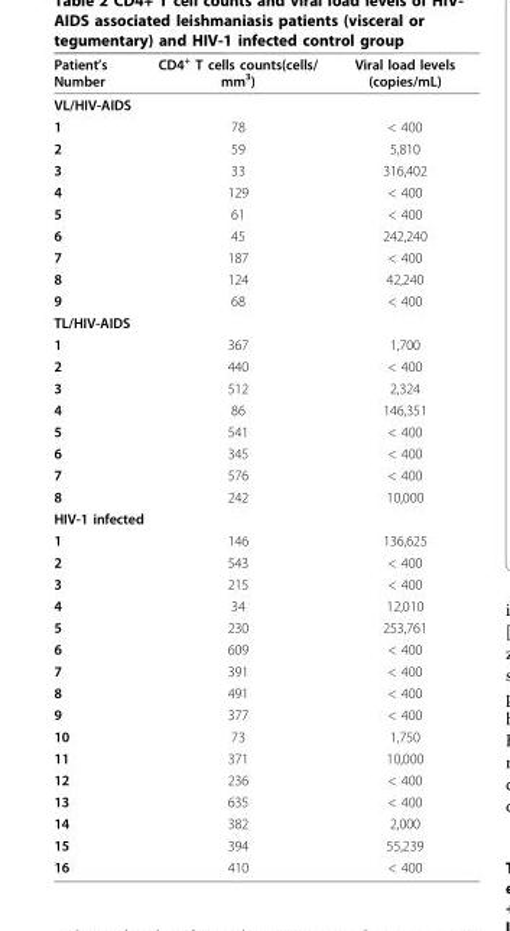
<table><thead><tr><td>Patient’s Number</td><td>CD4<sup>+</sup> T cells counts(cells/ mm<sup>3</sup>)</td><td>Viral load levels (copies/mL)</td></tr></thead><tbody><tr><td colspan="3">VL/HIV-AIDS</td></tr><tr><td>1</td><td>78</td><td>&lt; 400</td></tr><tr><td>2</td><td>59</td><td>5,810</td></tr><tr><td>3</td><td>33</td><td>316,402</td></tr><tr><td>4</td><td>129</td><td>&lt; 400</td></tr><tr><td>5</td><td>61</td><td>&lt; 400</td></tr><tr><td>6</td><td>45</td><td>242,240</td></tr><tr><td>7</td><td>187</td><td>&lt; 400</td></tr><tr><td>8</td><td>124</td><td>42,240</td></tr><tr><td>9</td><td>68</td><td>&lt; 400</td></tr><tr><td colspan="3">TL/HIV-AIDS</td></tr><tr><td>1</td><td>367</td><td>1,700</td></tr><tr><td>2</td><td>440</td><td>&lt; 400</td></tr><tr><td>3</td><td>512</td><td>2,324</td></tr><tr><td>4</td><td>86</td><td>146,351</td></tr><tr><td>5</td><td>541</td><td>&lt; 400</td></tr><tr><td>6</td><td>345</td><td>&lt; 400</td></tr><tr><td>7</td><td>576</td><td>&lt; 400</td></tr><tr><td>8</td><td>242</td><td>10,000</td></tr><tr><td colspan="3">HIV-1 infected</td></tr><tr><td>1</td><td>146</td><td>136,625</td></tr><tr><td>2</td><td>543</td><td>&lt; 400</td></tr><tr><td>3</td><td>215</td><td>&lt; 400</td></tr><tr><td>4</td><td>34</td><td>12,010</td></tr><tr><td>5</td><td>230</td><td>253,761</td></tr><tr><td>6</td><td>609</td><td>&lt; 400</td></tr><tr><td>7</td><td>391</td><td>&lt; 400</td></tr><tr><td>8</td><td>491</td><td>&lt; 400</td></tr><tr><td>9</td><td>377</td><td>&lt; 400</td></tr><tr><td>10</td><td>73</td><td>1,750</td></tr><tr><td>11</td><td>371</td><td>10,000</td></tr><tr><td>12</td><td>236</td><td>&lt; 400</td></tr><tr><td>13</td><td>635</td><td>&lt; 400</td></tr><tr><td>14</td><td>382</td><td>2,000</td></tr><tr><td>15</td><td>394</td><td>55,239</td></tr><tr><td>16</td><td>410</td><td>&lt; 400</td></tr></tbody></table>